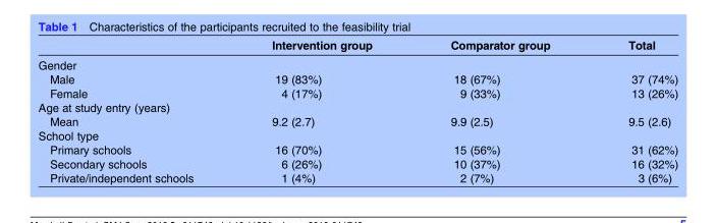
<table><thead><tr><td></td><td>Intervention group</td><td>Comparator group</td><td>Total</td></tr></thead><tbody><tr><td colspan="4">Gender</td></tr><tr><td>Male</td><td>19 (83%)</td><td>18 (67%)</td><td>37 (74%)</td></tr><tr><td>Female</td><td>4 (17%)</td><td>9 (33%)</td><td>13 (26%)</td></tr><tr><td colspan="4">Age at study entry (years)</td></tr><tr><td>Mean</td><td>9.2 (2.7)</td><td>9.9 (2.5)</td><td>9.5 (2.6)</td></tr><tr><td colspan="4">School type</td></tr><tr><td>Primary schools</td><td>16 (70%)</td><td>15 (56%)</td><td>31 (62%)</td></tr><tr><td>Secondary schools</td><td>6 (26%)</td><td>10 (37%)</td><td>16 (32%)</td></tr><tr><td>Private/independent schools</td><td>1 (4%)</td><td>2 (7%)</td><td>3 (6%)</td></tr></tbody></table>